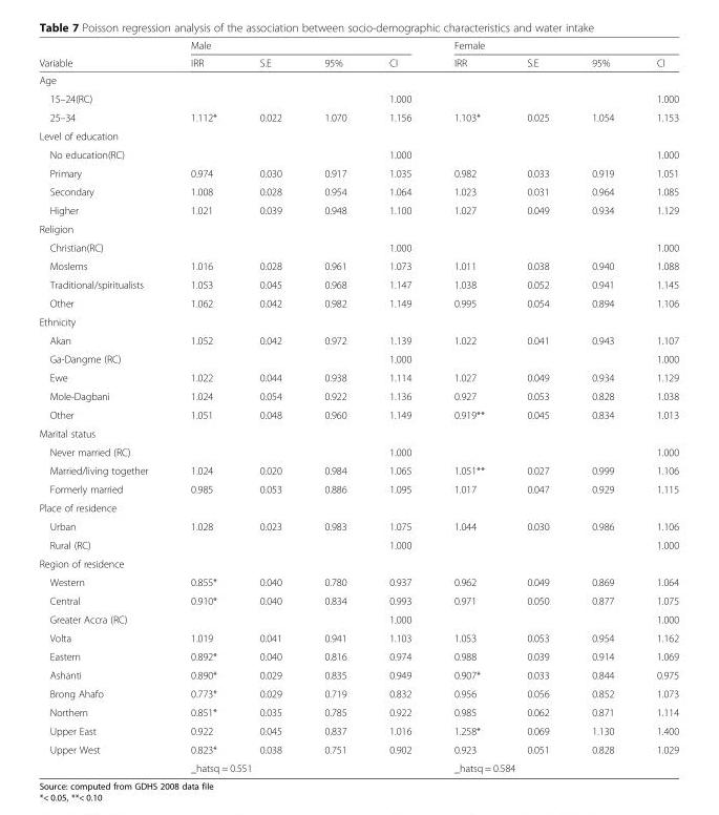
<table><thead><tr><td rowspan="2">Variable</td><td colspan="4">Male</td><td colspan="4">Female</td></tr><tr><td>IRR</td><td>S.E</td><td>95%</td><td>CI</td><td>IRR</td><td>S.E</td><td>95%</td><td>CI</td></tr></thead><tbody><tr><td colspan="9">Age</td></tr><tr><td>15–24(RC)</td><td></td><td></td><td></td><td>1.000</td><td></td><td></td><td></td><td>1.000</td></tr><tr><td>25–34</td><td>1.112*</td><td>0.022</td><td>1.070</td><td>1.156</td><td>1.103*</td><td>0.025</td><td>1.054</td><td>1.153</td></tr><tr><td colspan="9">Level of education</td></tr><tr><td>No education(RC)</td><td></td><td></td><td></td><td>1.000</td><td></td><td></td><td></td><td>1.000</td></tr><tr><td>Primary</td><td>0.974</td><td>0.030</td><td>0.917</td><td>1.035</td><td>0.982</td><td>0.033</td><td>0.919</td><td>1.051</td></tr><tr><td>Secondary</td><td>1.008</td><td>0.028</td><td>0.954</td><td>1.064</td><td>1.023</td><td>0.031</td><td>0.964</td><td>1.085</td></tr><tr><td>Higher</td><td>1.021</td><td>0.039</td><td>0.948</td><td>1.100</td><td>1.027</td><td>0.049</td><td>0.934</td><td>1.129</td></tr><tr><td colspan="9">Religion</td></tr><tr><td>Christian(RC)</td><td></td><td></td><td></td><td>1.000</td><td></td><td></td><td></td><td>1.000</td></tr><tr><td>Moslems</td><td>1.016</td><td>0.028</td><td>0.961</td><td>1.073</td><td>1.011</td><td>0.038</td><td>0.940</td><td>1.088</td></tr><tr><td>Traditional/spiritualists</td><td>1.053</td><td>0.045</td><td>0.968</td><td>1.147</td><td>1.038</td><td>0.052</td><td>0.941</td><td>1.145</td></tr><tr><td>Other</td><td>1.062</td><td>0.042</td><td>0.982</td><td>1.149</td><td>0.995</td><td>0.054</td><td>0.894</td><td>1.106</td></tr><tr><td colspan="9">Ethnicity</td></tr><tr><td>Akan</td><td>1.052</td><td>0.042</td><td>0.972</td><td>1.139</td><td>1.022</td><td>0.041</td><td>0.943</td><td>1.107</td></tr><tr><td>Ga-Dangme (RC)</td><td></td><td></td><td></td><td>1.000</td><td></td><td></td><td></td><td>1.000</td></tr><tr><td>Ewe</td><td>1.022</td><td>0.044</td><td>0.938</td><td>1.114</td><td>1.027</td><td>0.049</td><td>0.934</td><td>1.129</td></tr><tr><td>Mole-Dagbani</td><td>1.024</td><td>0.054</td><td>0.922</td><td>1.136</td><td>0.927</td><td>0.053</td><td>0.828</td><td>1.038</td></tr><tr><td>Other</td><td>1.051</td><td>0.048</td><td>0.960</td><td>1.149</td><td>0.919**</td><td>0.045</td><td>0.834</td><td>1.013</td></tr><tr><td colspan="9">Marital status</td></tr><tr><td>Never married (RC)</td><td></td><td></td><td></td><td>1.000</td><td></td><td></td><td></td><td>1.000</td></tr><tr><td>Married/living together</td><td>1.024</td><td>0.020</td><td>0.984</td><td>1.065</td><td>1.051**</td><td>0.027</td><td>0.999</td><td>1.106</td></tr><tr><td>Formerly married</td><td>0.985</td><td>0.053</td><td>0.886</td><td>1.095</td><td>1.017</td><td>0.047</td><td>0.929</td><td>1.115</td></tr><tr><td colspan="9">Place of residence</td></tr><tr><td>Urban</td><td>1.028</td><td>0.023</td><td>0.983</td><td>1.075</td><td>1.044</td><td>0.030</td><td>0.986</td><td>1.106</td></tr><tr><td>Rural (RC)</td><td></td><td></td><td></td><td>1.000</td><td></td><td></td><td></td><td>1.000</td></tr><tr><td colspan="9">Region of residence</td></tr><tr><td>Western</td><td>0.855*</td><td>0.040</td><td>0.780</td><td>0.937</td><td>0.962</td><td>0.049</td><td>0.869</td><td>1.064</td></tr><tr><td>Central</td><td>0.910*</td><td>0.040</td><td>0.834</td><td>0.993</td><td>0.971</td><td>0.050</td><td>0.877</td><td>1.075</td></tr><tr><td>Greater Accra (RC)</td><td></td><td></td><td></td><td>1.000</td><td></td><td></td><td></td><td>1.000</td></tr><tr><td>Volta</td><td>1.019</td><td>0.041</td><td>0.941</td><td>1.103</td><td>1.053</td><td>0.053</td><td>0.954</td><td>1.162</td></tr><tr><td>Eastern</td><td>0.892*</td><td>0.040</td><td>0.816</td><td>0.974</td><td>0.988</td><td>0.039</td><td>0.914</td><td>1.069</td></tr><tr><td>Ashanti</td><td>0.890*</td><td>0.029</td><td>0.835</td><td>0.949</td><td>0.907*</td><td>0.033</td><td>0.844</td><td>0.975</td></tr><tr><td>Brong Ahafo</td><td>0.773*</td><td>0.029</td><td>0.719</td><td>0.832</td><td>0.956</td><td>0.056</td><td>0.852</td><td>1.073</td></tr><tr><td>Northern</td><td>0.851*</td><td>0.035</td><td>0.785</td><td>0.922</td><td>0.985</td><td>0.062</td><td>0.871</td><td>1.114</td></tr><tr><td>Upper East</td><td>0.922</td><td>0.045</td><td>0.837</td><td>1.016</td><td>1.258*</td><td>0.069</td><td>1.130</td><td>1.400</td></tr><tr><td rowspan="2">Upper West</td><td>0.823*</td><td>0.038</td><td>0.751</td><td>0.902</td><td>0.923</td><td>0.051</td><td>0.828</td><td>1.029</td></tr><tr><td colspan="4">_hatsq = 0.551</td><td colspan="4">_hatsq = 0.584</td></tr></tbody></table>